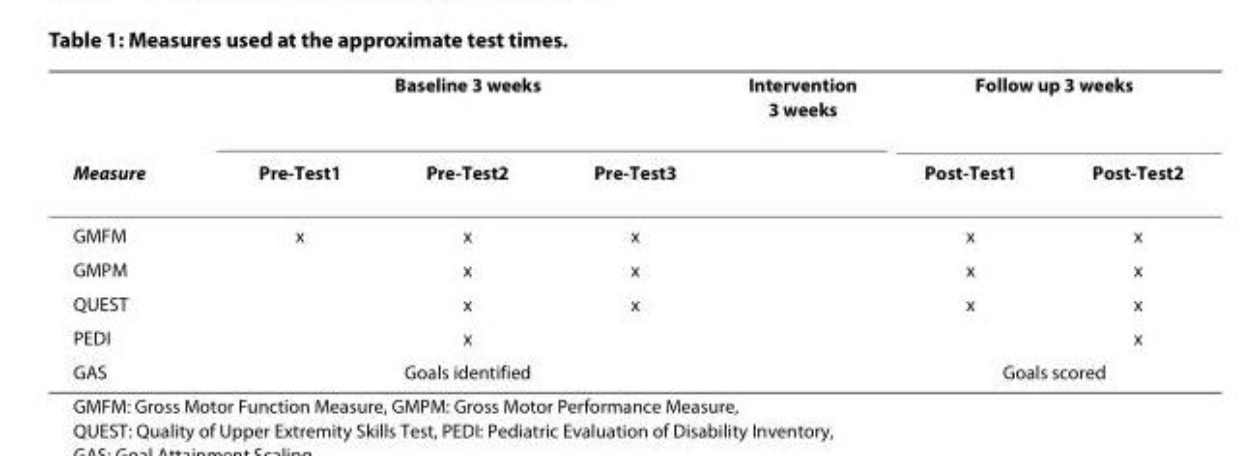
<table><thead><tr><td rowspan="2">Measure</td><td colspan="3">Baseline 3 weeks</td><td rowspan="2">Intervention 3 weeks</td><td colspan="2">Follow up 3 weeks</td></tr><tr><td>Pre-Test1</td><td>Pre-Test2</td><td>Pre-Test3</td><td>Post-Test1</td><td>Post-Test2</td></tr></thead><tbody><tr><td>GMFM</td><td>x</td><td>x</td><td>x</td><td></td><td>x</td><td>x</td></tr><tr><td>GMPM</td><td></td><td>x</td><td>x</td><td></td><td>x</td><td>x</td></tr><tr><td>QUEST</td><td></td><td>x</td><td>x</td><td></td><td>x</td><td>x</td></tr><tr><td>PEDI</td><td></td><td>x</td><td></td><td></td><td></td><td>x</td></tr><tr><td>GAS</td><td colspan="3">Goals identified</td><td></td><td colspan="2">Goals scored</td></tr></tbody></table>